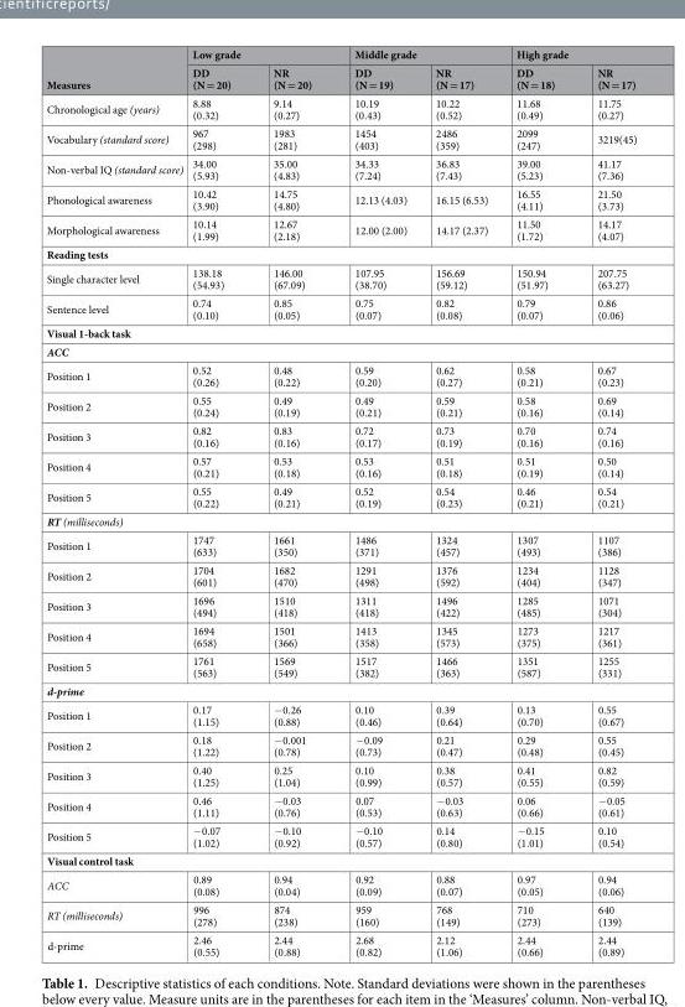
<table><thead><tr><td rowspan="2">Measures</td><td colspan="2">Low grade</td><td colspan="2">Middle grade</td><td colspan="2">High grade</td></tr><tr><td>DD (N = 20)</td><td>NR (N = 20)</td><td>DD (N = 19)</td><td>NR (N = 17)</td><td>DD (N = 18)</td><td>NR (N = 17)</td></tr></thead><tbody><tr><td>Chronological age (years)</td><td>8.88 (0.32)</td><td>9.14 (0.27)</td><td>10.19 (0.43)</td><td>10.22 (0.52)</td><td>11.68 (0.49)</td><td>11.75 (0.27)</td></tr><tr><td>Vocabulary (standard score)</td><td>967 (298)</td><td>1983 (281)</td><td>1454 (403)</td><td>2486 (359)</td><td>2099 (247)</td><td>3219(45)</td></tr><tr><td>Non-verbal IQ (standard score)</td><td>34.00 (5.93)</td><td>35.00 (4.83)</td><td>34.33 (7.24)</td><td>36.83 (7.43)</td><td>39.00 (5.23)</td><td>41.17 (7.36)</td></tr><tr><td>Phonological awareness</td><td>10.42 (3.90)</td><td>14.75 (4.80)</td><td>12.13 (4.03)</td><td>16.15 (6.53)</td><td>16.55 (4.11)</td><td>21.50 (3.73)</td></tr><tr><td>Morphological awareness</td><td>10.14 (1.99)</td><td>12.67 (2.18)</td><td>12.00 (2.00)</td><td>14.17 (2.37)</td><td>11.50 (1.72)</td><td>14.17 (4.07)</td></tr><tr><td colspan="7">Reading tests</td></tr><tr><td>Single character level</td><td>138.18 (54.93)</td><td>146.00 (67.09)</td><td>107.95 (38.70)</td><td>156.69 (59.12)</td><td>150.94 (51.97)</td><td>207.75 (63.27)</td></tr><tr><td>Sentence level</td><td>0.74 (0.10)</td><td>0.85 (0.05)</td><td>0.75 (0.07)</td><td>0.82 (0.08)</td><td>0.79 (0.07)</td><td>0.86 (0.06)</td></tr><tr><td colspan="7">Visual 1-back task</td></tr><tr><td colspan="7">ACC</td></tr><tr><td>Position 1</td><td>0.52 (0.26)</td><td>0.48 (0.22)</td><td>0.59 (0.20)</td><td>0.62 (0.27)</td><td>0.58 (0.21)</td><td>0.67 (0.23)</td></tr><tr><td>Position 2</td><td>0.55 (0.24)</td><td>0.49 (0.19)</td><td>0.49 (0.21)</td><td>0.59 (0.21)</td><td>0.58 (0.16)</td><td>0.69 (0.14)</td></tr><tr><td>Position 3</td><td>0.82 (0.16)</td><td>0.83 (0.16)</td><td>0.72 (0.17)</td><td>0.73 (0.19)</td><td>0.70 (0.16)</td><td>0.74 (0.16)</td></tr><tr><td>Position 4</td><td>0.57 (0.21)</td><td>0.53 (0.18)</td><td>0.53 (0.16)</td><td>0.51 (0.18)</td><td>0.51 (0.19)</td><td>0.50 (0.14)</td></tr><tr><td>Position 5</td><td>0.55 (0.22)</td><td>0.49 (0.21)</td><td>0.52 (0.19)</td><td>0.54 (0.23)</td><td>0.46 (0.21)</td><td>0.54 (0.21)</td></tr><tr><td colspan="7">RT (milliseconds)</td></tr><tr><td>Position 1</td><td>1747 (633)</td><td>1661 (350)</td><td>1486 (371)</td><td>1324 (457)</td><td>1307 (493)</td><td>1107 (386)</td></tr><tr><td>Position 2</td><td>1704 (601)</td><td>1682 (470)</td><td>1291 (498)</td><td>1376 (592)</td><td>1234 (404)</td><td>1128 (347)</td></tr><tr><td>Position 3</td><td>1696 (494)</td><td>1510 (418)</td><td>1311 (418)</td><td>1496 (422)</td><td>1285 (485)</td><td>1071 (304)</td></tr><tr><td>Position 4</td><td>1694 (658)</td><td>1501 (366)</td><td>1413 (358)</td><td>1345 (573)</td><td>1273 (375)</td><td>1217 (361)</td></tr><tr><td>Position 5</td><td>1761 (563)</td><td>1569 (549)</td><td>1517 (382)</td><td>1466 (363)</td><td>1351 (587)</td><td>1255 (331)</td></tr><tr><td colspan="7">d-prime</td></tr><tr><td>Position 1</td><td>0.17 (1.15)</td><td>−0.26 (0.88)</td><td>0.10 (0.46)</td><td>0.39 (0.64)</td><td>0.13 (0.70)</td><td>0.55 (0.67)</td></tr><tr><td>Position 2</td><td>0.18 (1.22)</td><td>−0.001 (0.78)</td><td>−0.09 (0.73)</td><td>0.21 (0.47)</td><td>0.29 (0.48)</td><td>0.55 (0.45)</td></tr><tr><td>Position 3</td><td>0.40 (1.25)</td><td>0.25 (1.04)</td><td>0.10 (0.99)</td><td>0.38 (0.57)</td><td>0.41 (0.55)</td><td>0.82 (0.59)</td></tr><tr><td>Position 4</td><td>0.46 (1.11)</td><td>−0.03 (0.76)</td><td>0.07 (0.53)</td><td>−0.03 (0.63)</td><td>0.06 (0.66)</td><td>−0.05 (0.61)</td></tr><tr><td>Position 5</td><td>−0.07 (1.02)</td><td>−0.10 (0.92)</td><td>−0.10 (0.57)</td><td>0.14 (0.80)</td><td>−0.15 (1.01)</td><td>0.10 (0.54)</td></tr><tr><td colspan="7">Visual control task</td></tr><tr><td>ACC</td><td>0.89 (0.08)</td><td>0.94 (0.04)</td><td>0.92 (0.09)</td><td>0.88 (0.07)</td><td>0.97 (0.05)</td><td>0.94 (0.06)</td></tr><tr><td>RT (milliseconds)</td><td>996 (278)</td><td>874 (238)</td><td>959 (160)</td><td>768 (149)</td><td>710 (273)</td><td>640 (139)</td></tr><tr><td>d-prime</td><td>2.46 (0.55)</td><td>2.44 (0.88)</td><td>2.68 (0.82)</td><td>2.12 (1.06)</td><td>2.44 (0.66)</td><td>2.44 (0.89)</td></tr></tbody></table>